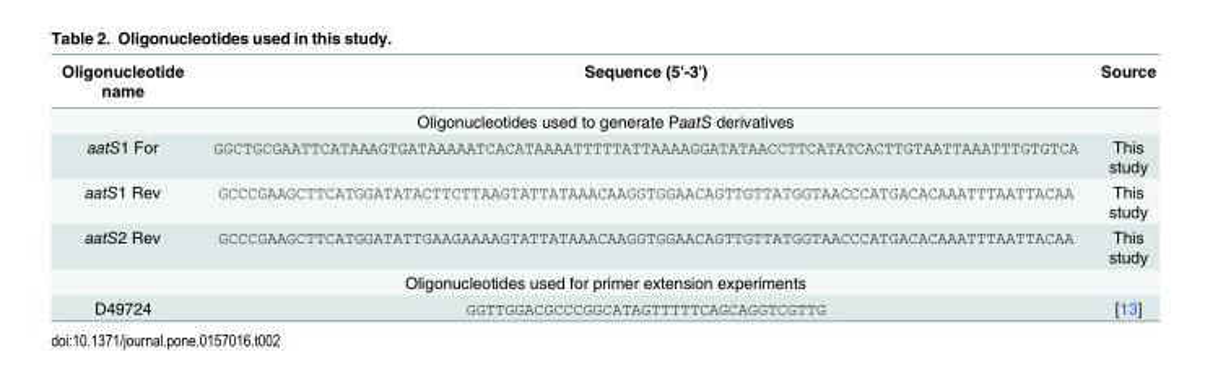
<table><thead><tr><td>Oligonucleotide name</td><td>Sequence (5&#x27;-3&#x27;)</td><td>Source</td></tr></thead><tbody><tr><td colspan="3">Oligonucleotides used to generate PaatS derivatives</td></tr><tr><td>aatS1 For</td><td>GGCTGCGAATTCATAAAGTGATAAAAATCACATAAAATTTTTATTAAAAGGATATAACCTTCATATCACTTGTAATTAAATTTGTGTCA</td><td>This study</td></tr><tr><td>aatS1 Rev</td><td>GCCCGAAGCTTCATGGATATACTTCTTAAGTATTATAAACAAGGTGGAACAGTTGTTATGGTAACCCATGACACAAATTTAATTACAA</td><td>This study</td></tr><tr><td>aatS2 Rev</td><td>GCCCGAAGCTTCATGGATATTGAAGAAAAGTATTATAAACAAGGTGGAACAGTTGTTATGGTAACCCATGACACAAATTTAATTACAA</td><td>This study</td></tr><tr><td colspan="3">Oligonucleotides used for primer extension experiments</td></tr><tr><td>D49724</td><td>GGTTGGACGCCCGGCATAGTTTTTCAGCAGGTCGTTG</td><td>[13]</td></tr></tbody></table>